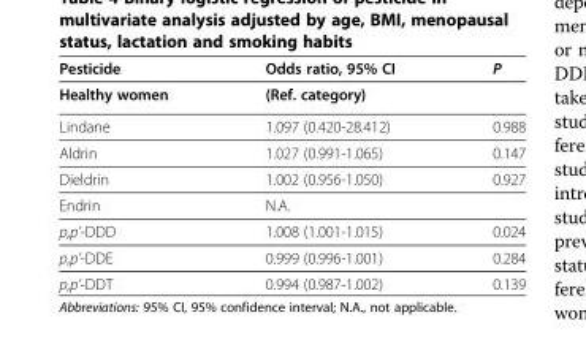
<table><thead><tr><td rowspan="2">Pesticide Healthy women</td><td rowspan="2">Odds ratio, 95% CI (Ref. category)</td><td rowspan="2">P</td></tr><tr></tr></thead><tbody><tr><td>Lindane</td><td>1.097 (0.420-28.412)</td><td>0.988</td></tr><tr><td>Aldrin</td><td>1.027 (0.991-1.065)</td><td>0.147</td></tr><tr><td>Dieldrin</td><td>1.002 (0.956-1.050)</td><td>0.927</td></tr><tr><td>Endrin</td><td>N.A.</td><td></td></tr><tr><td>p,p’-DDD</td><td>1.008 (1.001-1.015)</td><td>0.024</td></tr><tr><td>p,p’-DDE</td><td>0.999 (0.996-1.001)</td><td>0.284</td></tr><tr><td>p,p’-DDT</td><td>0.994 (0.987-1.002)</td><td>0.139</td></tr></tbody></table>